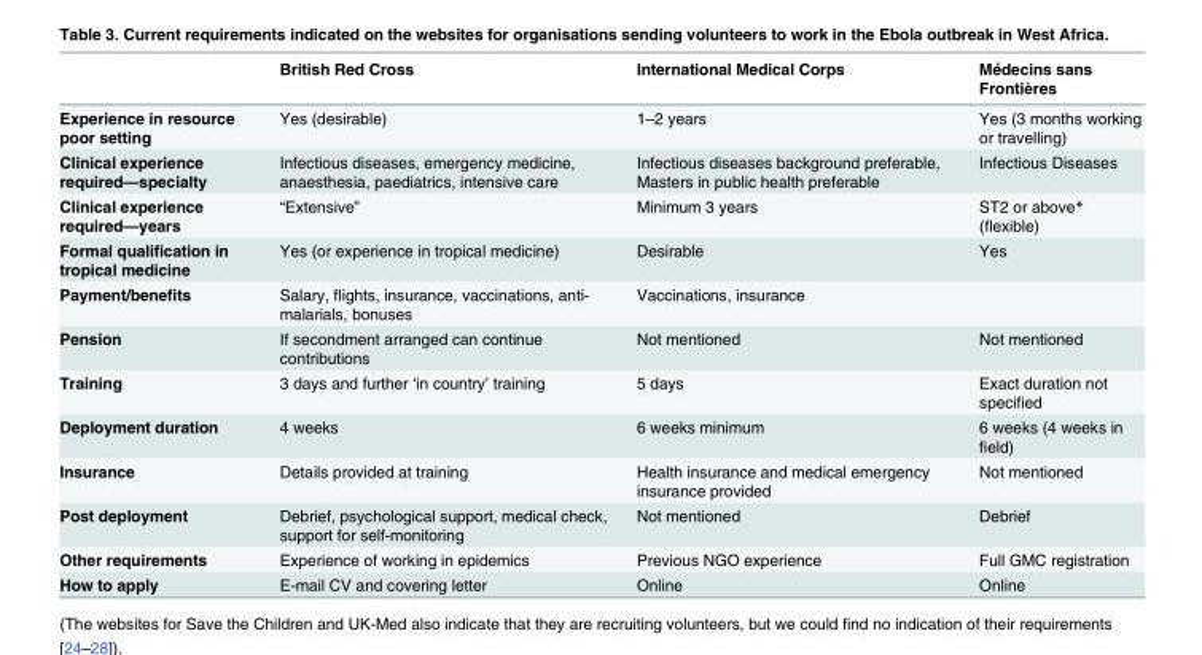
<table><thead><tr><td></td><td>British Red Cross</td><td>International Medical Corps</td><td>Médecins sans Frontières</td></tr></thead><tbody><tr><td>Experience in resource poor setting</td><td>Yes (desirable)</td><td>1–2 years</td><td>Yes (3 months working or travelling)</td></tr><tr><td>Clinical experience required—specialty</td><td>Infectious diseases, emergency medicine, anaesthesia, paediatrics, intensive care</td><td>Infectious diseases background preferable, Masters in public health preferable</td><td>Infectious Diseases</td></tr><tr><td>Clinical experience required—years</td><td>“Extensive”</td><td>Minimum 3 years</td><td>ST2 or above* (flexible)</td></tr><tr><td>Formal qualification in tropical medicine</td><td>Yes (or experience in tropical medicine)</td><td>Desirable</td><td>Yes</td></tr><tr><td>Payment/benefits</td><td>Salary, flights, insurance, vaccinations, anti- malarials, bonuses</td><td>Vaccinations, insurance</td><td></td></tr><tr><td>Pension</td><td>If secondment arranged can continue contributions</td><td>Not mentioned</td><td>Not mentioned</td></tr><tr><td>Training</td><td>3 days and further ‘in country’ training</td><td>5 days</td><td>Exact duration not specified</td></tr><tr><td>Deployment duration</td><td>4 weeks</td><td>6 weeks minimum</td><td>6 weeks (4 weeks in field)</td></tr><tr><td>Insurance</td><td>Details provided at training</td><td>Health insurance and medical emergency insurance provided</td><td>Not mentioned</td></tr><tr><td>Post deployment</td><td>Debrief, psychological support, medical check, support for self-monitoring</td><td>Not mentioned</td><td>Debrief</td></tr><tr><td>Other requirements</td><td>Experience of working in epidemics</td><td>Previous NGO experience</td><td>Full GMC registration</td></tr><tr><td>How to apply</td><td>E-mail CV and covering letter</td><td>Online</td><td>Online</td></tr></tbody></table>